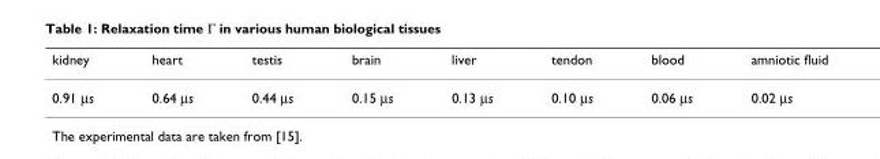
<table><thead><tr><td>kidney</td><td>heart</td><td>testis</td><td>brain</td><td>liver</td><td>tendon</td><td>blood</td><td>amniotic fluid</td></tr></thead><tbody><tr><td>0.91 μs</td><td>0.64 μs</td><td>0.44 μs</td><td>0.15 μs</td><td>0.13 μs</td><td>0.10 μs</td><td>0.06 μs</td><td>0.02 μs</td></tr></tbody></table>